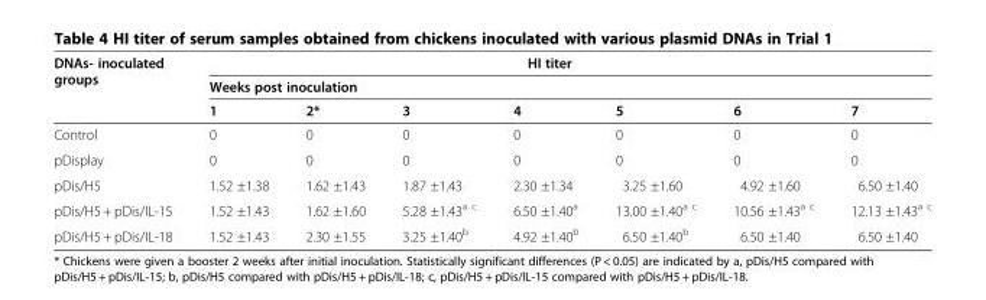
<table><thead><tr><td rowspan="3">DNAs- inoculated groups</td><td></td><td></td><td colspan="3">HI titer</td><td></td><td></td></tr><tr><td colspan="7">Weeks post inoculation</td></tr><tr><td>1</td><td>2*</td><td>3</td><td>4</td><td>5</td><td>6</td><td>7</td></tr></thead><tbody><tr><td>Control</td><td>0</td><td>0</td><td>0</td><td>0</td><td>0</td><td>0</td><td>0</td></tr><tr><td>pDisplay</td><td>0</td><td>0</td><td>0</td><td>0</td><td>0</td><td>0</td><td>0</td></tr><tr><td>pDis/H5</td><td>1.52 ±1.38</td><td>1.62 ±1.43</td><td>1.87 ±1.43</td><td>2.30 ±1.34</td><td>3.25 ±1.60</td><td>4.92 ±1.60</td><td>6.50 ±1.40</td></tr><tr><td>pDis/H5 + pDis/IL-15</td><td>1.52 ±1.43</td><td>1.62 ±1.60</td><td>5.28 ±1.43<sup>a c</sup></td><td>6.50 ±1.40<sup>a</sup></td><td>13.00 ±1.40<sup>a c</sup></td><td>10.56 ±1.43<sup>a c</sup></td><td>12.13 ±1.43<sup>a c</sup></td></tr><tr><td>pDis/H5 + pDis/IL-18</td><td>1.52 ±1.43</td><td>2.30 ±1.55</td><td>3.25 ±1.40<sup>b</sup></td><td>4.92 ±1.40<sup>b</sup></td><td>6.50 ±1.40<sup>b</sup></td><td>6.50 ±1.40</td><td>6.50 ±1.40</td></tr></tbody></table>